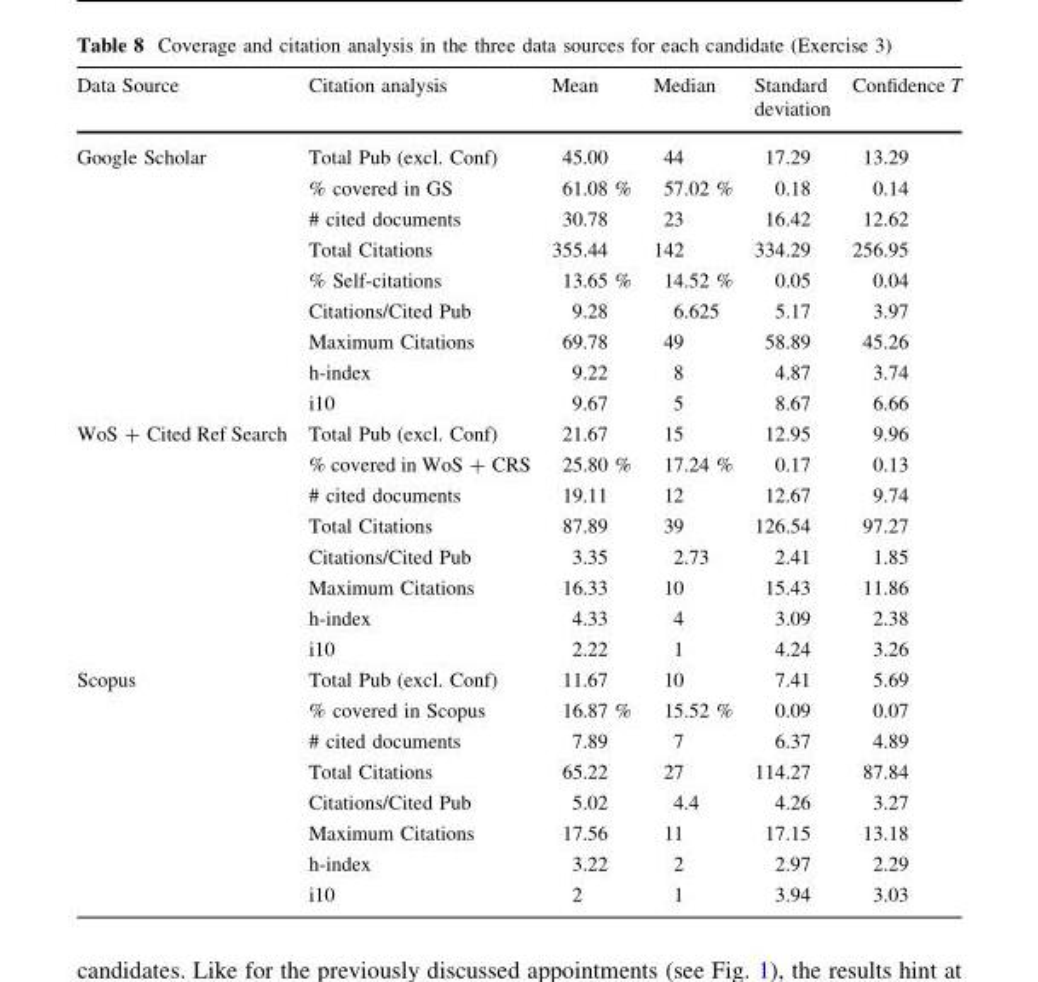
<table><thead><tr><td>Data Source</td><td>Citation analysis</td><td>Mean</td><td>Median</td><td>Standard deviation</td><td>Confidence T</td></tr></thead><tbody><tr><td rowspan="9">Google Scholar</td><td>Total Pub (excl. Conf)</td><td>45.00</td><td>44</td><td>17.29</td><td>13.29</td></tr><tr><td>% covered in GS</td><td>61.08 %</td><td>57.02 %</td><td>0.18</td><td>0.14</td></tr><tr><td># cited documents</td><td>30.78</td><td>23</td><td>16.42</td><td>12.62</td></tr><tr><td>Total Citations</td><td>355.44</td><td>142</td><td>334.29</td><td>256.95</td></tr><tr><td>% Self-citations</td><td>13.65 %</td><td>14.52 %</td><td>0.05</td><td>0.04</td></tr><tr><td>Citations/Cited Pub</td><td>9.28</td><td>6.625</td><td>5.17</td><td>3.97</td></tr><tr><td>Maximum Citations</td><td>69.78</td><td>49</td><td>58.89</td><td>45.26</td></tr><tr><td>h-index</td><td>9.22</td><td>8</td><td>4.87</td><td>3.74</td></tr><tr><td>i10</td><td>9.67</td><td>5</td><td>8.67</td><td>6.66</td></tr><tr><td rowspan="8">WoS + Cited Ref Search</td><td>Total Pub (excl. Conf)</td><td>21.67</td><td>15</td><td>12.95</td><td>9.96</td></tr><tr><td>% covered in WoS + CRS</td><td>25.80 %</td><td>17.24 %</td><td>0.17</td><td>0.13</td></tr><tr><td># cited documents</td><td>19.11</td><td>12</td><td>12.67</td><td>9.74</td></tr><tr><td>Total Citations</td><td>87.89</td><td>39</td><td>126.54</td><td>97.27</td></tr><tr><td>Citations/Cited Pub</td><td>3.35</td><td>2.73</td><td>2.41</td><td>1.85</td></tr><tr><td>Maximum Citations</td><td>16.33</td><td>10</td><td>15.43</td><td>11.86</td></tr><tr><td>h-index</td><td>4.33</td><td>4</td><td>3.09</td><td>2.38</td></tr><tr><td>i10</td><td>2.22</td><td>1</td><td>4.24</td><td>3.26</td></tr><tr><td rowspan="8">Scopus</td><td>Total Pub (excl. Conf)</td><td>11.67</td><td>10</td><td>7.41</td><td>5.69</td></tr><tr><td>% covered in Scopus</td><td>16.87 %</td><td>15.52 %</td><td>0.09</td><td>0.07</td></tr><tr><td># cited documents</td><td>7.89</td><td>7</td><td>6.37</td><td>4.89</td></tr><tr><td>Total Citations</td><td>65.22</td><td>27</td><td>114.27</td><td>87.84</td></tr><tr><td>Citations/Cited Pub</td><td>5.02</td><td>4.4</td><td>4.26</td><td>3.27</td></tr><tr><td>Maximum Citations</td><td>17.56</td><td>11</td><td>17.15</td><td>13.18</td></tr><tr><td>h-index</td><td>3.22</td><td>2</td><td>2.97</td><td>2.29</td></tr><tr><td>i10</td><td>2</td><td>1</td><td>3.94</td><td>3.03</td></tr></tbody></table>